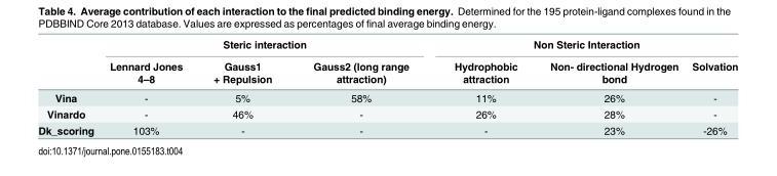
<table><thead><tr><td rowspan="2"></td><td colspan="3">Steric interaction</td><td colspan="3">Non Steric Interaction</td></tr><tr><td>Lennard Jones 4–8</td><td>Gauss1 + Repulsion</td><td>Gauss2 (long range attraction)</td><td>Hydrophobic attraction</td><td>Non- directional Hydrogen bond</td><td>Solvation</td></tr></thead><tbody><tr><td>Vina</td><td>-</td><td>5%</td><td>58%</td><td>11%</td><td>26%</td><td>-</td></tr><tr><td>Vinardo</td><td>-</td><td>46%</td><td>-</td><td>26%</td><td>28%</td><td>-</td></tr><tr><td>Dk_scoring</td><td>103%</td><td>-</td><td>-</td><td>-</td><td>23%</td><td>-26%</td></tr></tbody></table>